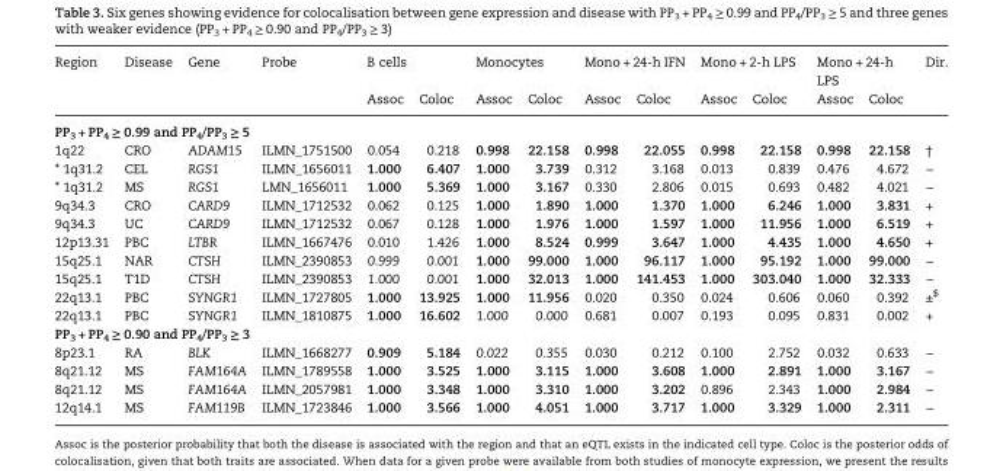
<table><thead><tr><td rowspan="2">Region</td><td rowspan="2">Disease</td><td rowspan="2">Gene</td><td rowspan="2">Probe</td><td colspan="2">B cells</td><td colspan="2">Monocytes</td><td colspan="2">Mono + 24-h IFN</td><td colspan="2">Mono + 2-h LPS</td><td colspan="2">Mono + 24-h LPS</td><td rowspan="2">Dir.</td></tr><tr><td>Assoc</td><td>Coloc</td><td>Assoc</td><td>Coloc</td><td>Assoc</td><td>Coloc</td><td>Assoc</td><td>Coloc</td><td>Assoc</td><td>Coloc</td></tr></thead><tbody><tr><td colspan="15">PP<sub>3</sub> + PP<sub>4</sub> ≥ 0.99 and PP<sub>4</sub>/PP<sub>3</sub> ≥ 5</td></tr><tr><td>1q22</td><td>CRO</td><td>ADAM15</td><td>ILMN_1751500</td><td>0.054</td><td>0.218</td><td>0.998</td><td>22.158</td><td>0.998</td><td>22.055</td><td>0.998</td><td>22.158</td><td>0.998</td><td>22.158</td><td>†</td></tr><tr><td>* 1q31.2</td><td>CEL</td><td>RGS1</td><td>ILMN_1656011</td><td>1.000</td><td>6.407</td><td>1.000</td><td>3.739</td><td>0.312</td><td>3.168</td><td>0.013</td><td>0.839</td><td>0.476</td><td>4.672</td><td>−</td></tr><tr><td>* 1q31.2</td><td>MS</td><td>RGS1</td><td>LMN_1656011</td><td>1.000</td><td>5.369</td><td>1.000</td><td>3.167</td><td>0.330</td><td>2.806</td><td>0.015</td><td>0.693</td><td>0.482</td><td>4.021</td><td>−</td></tr><tr><td>9q34.3</td><td>CRO</td><td>CARD9</td><td>ILMN_1712532</td><td>0.062</td><td>0.125</td><td>1.000</td><td>1.890</td><td>1.000</td><td>1.370</td><td>1.000</td><td>6.246</td><td>1.000</td><td>3.831</td><td>+</td></tr><tr><td>9q34.3</td><td>UC</td><td>CARD9</td><td>ILMN_1712532</td><td>0.067</td><td>0.128</td><td>1.000</td><td>1.976</td><td>1.000</td><td>1.597</td><td>1.000</td><td>11.956</td><td>1.000</td><td>6.519</td><td>+</td></tr><tr><td>12p13.31</td><td>PBC</td><td>LTBR</td><td>ILMN_1667476</td><td>0.010</td><td>1.426</td><td>1.000</td><td>8.524</td><td>0.999</td><td>3.647</td><td>1.000</td><td>4.435</td><td>1.000</td><td>4.650</td><td>+</td></tr><tr><td>15q25.1</td><td>NAR</td><td>CTSH</td><td>ILMN_2390853</td><td>0.999</td><td>0.001</td><td>1.000</td><td>99.000</td><td>1.000</td><td>96.117</td><td>1.000</td><td>95.192</td><td>1.000</td><td>99.000</td><td>−</td></tr><tr><td>15q25.1</td><td>T1D</td><td>CTSH</td><td>ILMN_2390853</td><td>1.000</td><td>0.001</td><td>1.000</td><td>32.013</td><td>1.000</td><td>141.453</td><td>1.000</td><td>303.040</td><td>1.000</td><td>32.333</td><td>−</td></tr><tr><td>22q13.1</td><td>PBC</td><td>SYNGR1</td><td>ILMN_1727805</td><td>1.000</td><td>13.925</td><td>1.000</td><td>11.956</td><td>0.020</td><td>0.350</td><td>0.024</td><td>0.606</td><td>0.060</td><td>0.392</td><td>±<sup>$</sup></td></tr><tr><td>22q13.1</td><td>PBC</td><td>SYNGR1</td><td>ILMN_1810875</td><td>1.000</td><td>16.602</td><td>1.000</td><td>0.000</td><td>0.681</td><td>0.007</td><td>0.193</td><td>0.095</td><td>0.831</td><td>0.002</td><td>+</td></tr><tr><td colspan="15">PP<sub>3</sub> + PP<sub>4</sub> ≥ 0.90 and PP<sub>4</sub>/PP<sub>3</sub> ≥ 3</td></tr><tr><td>8p23.1</td><td>RA</td><td>BLK</td><td>ILMN_1668277</td><td>0.909</td><td>5.184</td><td>0.022</td><td>0.355</td><td>0.030</td><td>0.212</td><td>0.100</td><td>2.752</td><td>0.032</td><td>0.633</td><td>−</td></tr><tr><td>8q21.12</td><td>MS</td><td>FAM164A</td><td>ILMN_1789558</td><td>1.000</td><td>3.525</td><td>1.000</td><td>3.115</td><td>1.000</td><td>3.608</td><td>1.000</td><td>2.891</td><td>1.000</td><td>3.167</td><td>−</td></tr><tr><td>8q21.12</td><td>MS</td><td>FAM164A</td><td>ILMN_2057981</td><td>1.000</td><td>3.348</td><td>1.000</td><td>3.310</td><td>1.000</td><td>3.202</td><td>0.896</td><td>2.343</td><td>1.000</td><td>2.984</td><td>−</td></tr><tr><td>12q14.1</td><td>MS</td><td>FAM119B</td><td>ILMN_1723846</td><td>1.000</td><td>3.566</td><td>1.000</td><td>4.051</td><td>1.000</td><td>3.717</td><td>1.000</td><td>3.329</td><td>1.000</td><td>2.311</td><td>−</td></tr></tbody></table>